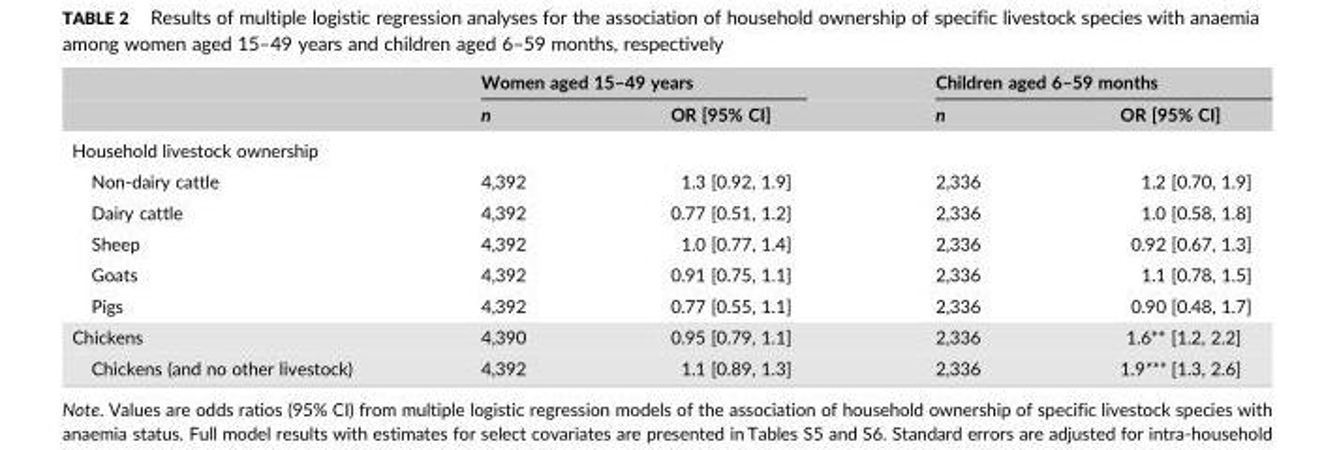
<table><thead><tr><td rowspan="2"></td><td colspan="2">Women aged 15–49 years</td><td colspan="2">Children aged 6–59 months</td></tr><tr><td>n</td><td>OR [95% CI]</td><td>n</td><td>OR [95% CI]</td></tr></thead><tbody><tr><td colspan="5">Household livestock ownership</td></tr><tr><td>Non‐dairy cattle</td><td>4,392</td><td>1.3 [0.92, 1.9]</td><td>2,336</td><td>1.2 [0.70, 1.9]</td></tr><tr><td>Dairy cattle</td><td>4,392</td><td>0.77 [0.51, 1.2]</td><td>2,336</td><td>1.0 [0.58, 1.8]</td></tr><tr><td>Sheep</td><td>4,392</td><td>1.0 [0.77, 1.4]</td><td>2,336</td><td>0.92 [0.67, 1.3]</td></tr><tr><td>Goats</td><td>4,392</td><td>0.91 [0.75, 1.1]</td><td>2,336</td><td>1.1 [0.78, 1.5]</td></tr><tr><td>Pigs</td><td>4,392</td><td>0.77 [0.55, 1.1]</td><td>2,336</td><td>0.90 [0.48, 1.7]</td></tr><tr><td>Chickens</td><td>4,390</td><td>0.95 [0.79, 1.1]</td><td>2,336</td><td>1.6** [1.2, 2.2]</td></tr><tr><td>Chickens (and no other livestock)</td><td>4,392</td><td>1.1 [0.89, 1.3]</td><td>2,336</td><td>1.9*** [1.3, 2.6]</td></tr></tbody></table>